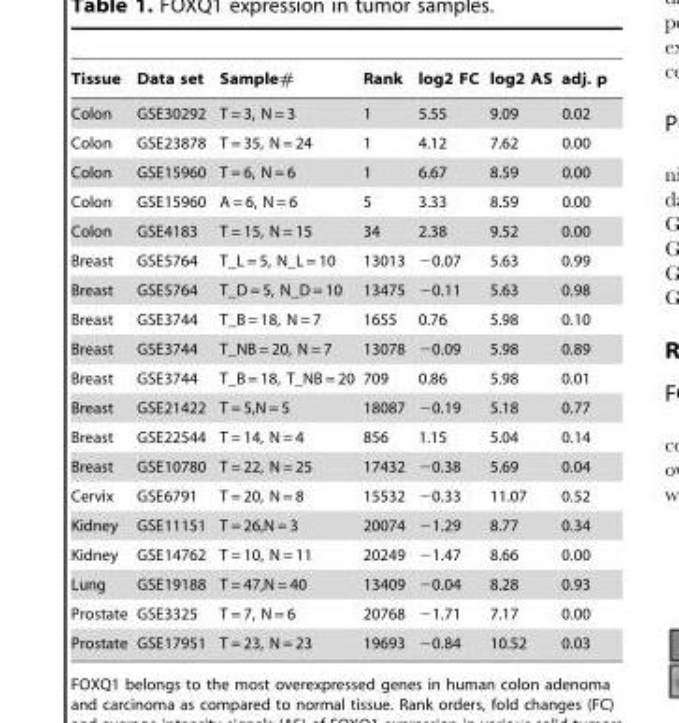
<table><thead><tr><td>Tissue</td><td>Data set</td><td>Sample#</td><td>Rank</td><td>log2 FC</td><td>log2 AS</td><td>adj. p</td></tr></thead><tbody><tr><td>Colon</td><td>GSE30292</td><td>T = 3, N = 3</td><td>1</td><td>5.55</td><td>9.09</td><td>0.02</td></tr><tr><td>Colon</td><td>GSE23878</td><td>T = 35, N = 24</td><td>1</td><td>4.12</td><td>7.62</td><td>0.00</td></tr><tr><td>Colon</td><td>GSE15960</td><td>T = 6, N = 6</td><td>1</td><td>6.67</td><td>8.59</td><td>0.00</td></tr><tr><td>Colon</td><td>GSE15960</td><td>A = 6, N = 6</td><td>5</td><td>3.33</td><td>8.59</td><td>0.00</td></tr><tr><td>Colon</td><td>GSE4183</td><td>T = 15, N = 15</td><td>34</td><td>2.38</td><td>9.52</td><td>0.00</td></tr><tr><td>Breast</td><td>GSE5764</td><td>T_L = 5, N_L = 10</td><td>13013</td><td>−0.07</td><td>5.63</td><td>0.99</td></tr><tr><td>Breast</td><td>GSE5764</td><td>T_D = 5, N_D = 10</td><td>13475</td><td>−0.11</td><td>5.63</td><td>0.98</td></tr><tr><td>Breast</td><td>GSE3744</td><td>T_B = 18, N = 7</td><td>1655</td><td>0.76</td><td>5.98</td><td>0.10</td></tr><tr><td>Breast</td><td>GSE3744</td><td>T_NB = 20, N = 7</td><td>13078</td><td>−0.09</td><td>5.98</td><td>0.89</td></tr><tr><td>Breast</td><td>GSE3744</td><td>T_B = 18, T_NB = 20</td><td>709</td><td>0.86</td><td>5.98</td><td>0.01</td></tr><tr><td>Breast</td><td>GSE21422</td><td>T = 5,N = 5</td><td>18087</td><td>−0.19</td><td>5.18</td><td>0.77</td></tr><tr><td>Breast</td><td>GSE22544</td><td>T = 14, N = 4</td><td>856</td><td>1.15</td><td>5.04</td><td>0.14</td></tr><tr><td>Breast</td><td>GSE10780</td><td>T = 22, N = 25</td><td>17432</td><td>−0.38</td><td>5.69</td><td>0.04</td></tr><tr><td>Cervix</td><td>GSE6791</td><td>T = 20, N = 8</td><td>15532</td><td>−0.33</td><td>11.07</td><td>0.52</td></tr><tr><td>Kidney</td><td>GSE11151</td><td>T = 26,N = 3</td><td>20074</td><td>−1.29</td><td>8.77</td><td>0.34</td></tr><tr><td>Kidney</td><td>GSE14762</td><td>T = 10, N = 11</td><td>20249</td><td>−1.47</td><td>8.66</td><td>0.00</td></tr><tr><td>Lung</td><td>GSE19188</td><td>T = 47,N = 40</td><td>13409</td><td>−0.04</td><td>8.28</td><td>0.93</td></tr><tr><td>Prostate</td><td>GSE3325</td><td>T = 7, N = 6</td><td>20768</td><td>−1.71</td><td>7.17</td><td>0.00</td></tr><tr><td>Prostate</td><td>GSE17951</td><td>T = 23, N = 23</td><td>19693</td><td>−0.84</td><td>10.52</td><td>0.03</td></tr></tbody></table>